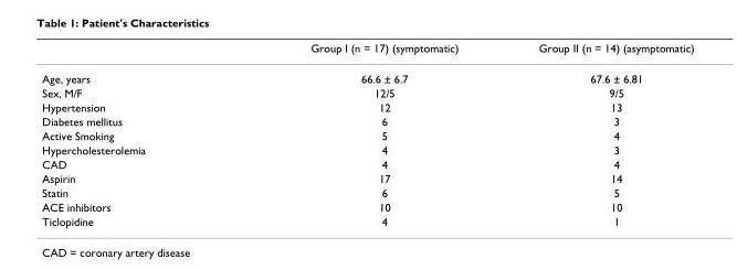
<table><thead><tr><td></td><td>Group I (n = 17) (symptomatic)</td><td>Group II (n = 14) (asymptomatic)</td></tr></thead><tbody><tr><td>Age, years</td><td>66.6 ± 6.7</td><td>67.6 ± 6.81</td></tr><tr><td>Sex, M/F</td><td>12/5</td><td>9/5</td></tr><tr><td>Hypertension</td><td>12</td><td>13</td></tr><tr><td>Diabetes mellitus</td><td>6</td><td>3</td></tr><tr><td>Active Smoking</td><td>5</td><td>4</td></tr><tr><td>Hypercholesterolemia</td><td>4</td><td>3</td></tr><tr><td>CAD</td><td>4</td><td>4</td></tr><tr><td>Aspirin</td><td>17</td><td>14</td></tr><tr><td>Statin</td><td>6</td><td>5</td></tr><tr><td>ACE inhibitors</td><td>10</td><td>10</td></tr><tr><td>Ticlopidine</td><td>4</td><td>1</td></tr></tbody></table>